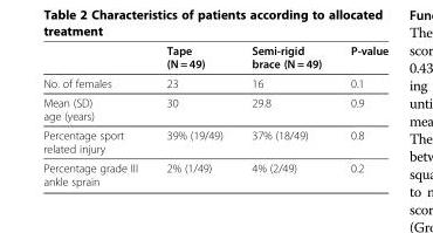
<table><thead><tr><td></td><td>Tape (N = 49)</td><td>Semi-rigid brace (N = 49)</td><td>P-value</td></tr></thead><tbody><tr><td>No. of females</td><td>23</td><td>16</td><td>0.1</td></tr><tr><td>Mean (SD) age (years)</td><td>30</td><td>29.8</td><td>0.9</td></tr><tr><td>Percentage sport related injury</td><td>39% (19/49)</td><td>37% (18/49)</td><td>0.8</td></tr><tr><td>Percentage grade III ankle sprain</td><td>2% (1/49)</td><td>4% (2/49)</td><td>0.2</td></tr></tbody></table>